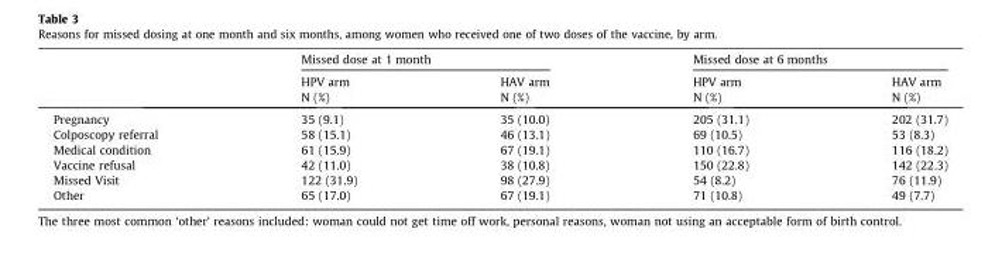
<table><thead><tr><td rowspan="2"></td><td colspan="2">Missed dose at 1 month</td><td colspan="2">Missed dose at 6 months</td></tr><tr><td>HPV arm N (%)</td><td>HAV arm N (%)</td><td>HPV arm N (%)</td><td>HAV arm N (%)</td></tr></thead><tbody><tr><td>Pregnancy</td><td>35 (9.1)</td><td>35 (10.0)</td><td>205 (31.1)</td><td>202 (31.7)</td></tr><tr><td>Colposcopy referral</td><td>58 (15.1)</td><td>46 (13.1)</td><td>69 (10.5)</td><td>53 (8.3)</td></tr><tr><td>Medical condition</td><td>61 (15.9)</td><td>67 (19.1)</td><td>110 (16.7)</td><td>116 (18.2)</td></tr><tr><td>Vaccine refusal</td><td>42 (11.0)</td><td>38 (10.8)</td><td>150 (22.8)</td><td>142 (22.3)</td></tr><tr><td>Missed Visit</td><td>122 (31.9)</td><td>98 (27.9)</td><td>54 (8.2)</td><td>76 (11.9)</td></tr><tr><td>Other</td><td>65 (17.0)</td><td>67 (19.1)</td><td>71 (10.8)</td><td>49 (7.7)</td></tr></tbody></table>